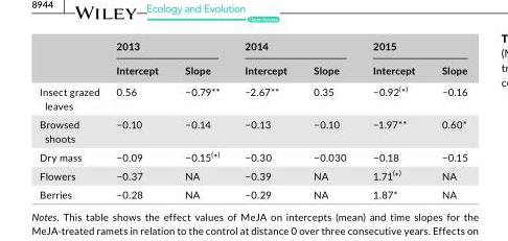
<table><thead><tr><td rowspan="2"></td><td colspan="2">2013</td><td colspan="2">2014</td><td colspan="2">2015</td></tr><tr><td>Intercept</td><td>Slope</td><td>Intercept</td><td>Slope</td><td>Intercept</td><td>Slope</td></tr></thead><tbody><tr><td>Insect grazed leaves</td><td>0.56</td><td>−0.79**</td><td>−2.67**</td><td>0.35</td><td>−0.92(*)</td><td>−0.16</td></tr><tr><td>Browsed shoots</td><td>−0.10</td><td>−0.14</td><td>−0.13</td><td>−0.10</td><td>−1.97**</td><td>0.60*</td></tr><tr><td>Dry mass</td><td>−0.09</td><td>−0.15(*)</td><td>−0.30</td><td>−0.030</td><td>−0.18</td><td>−0.15</td></tr><tr><td>Flowers</td><td>−0.37</td><td>NA</td><td>−0.39</td><td>NA</td><td>1.71(*)</td><td>NA</td></tr><tr><td>Berries</td><td>−0.28</td><td>NA</td><td>−0.29</td><td>NA</td><td>1.87*</td><td>NA</td></tr></tbody></table>